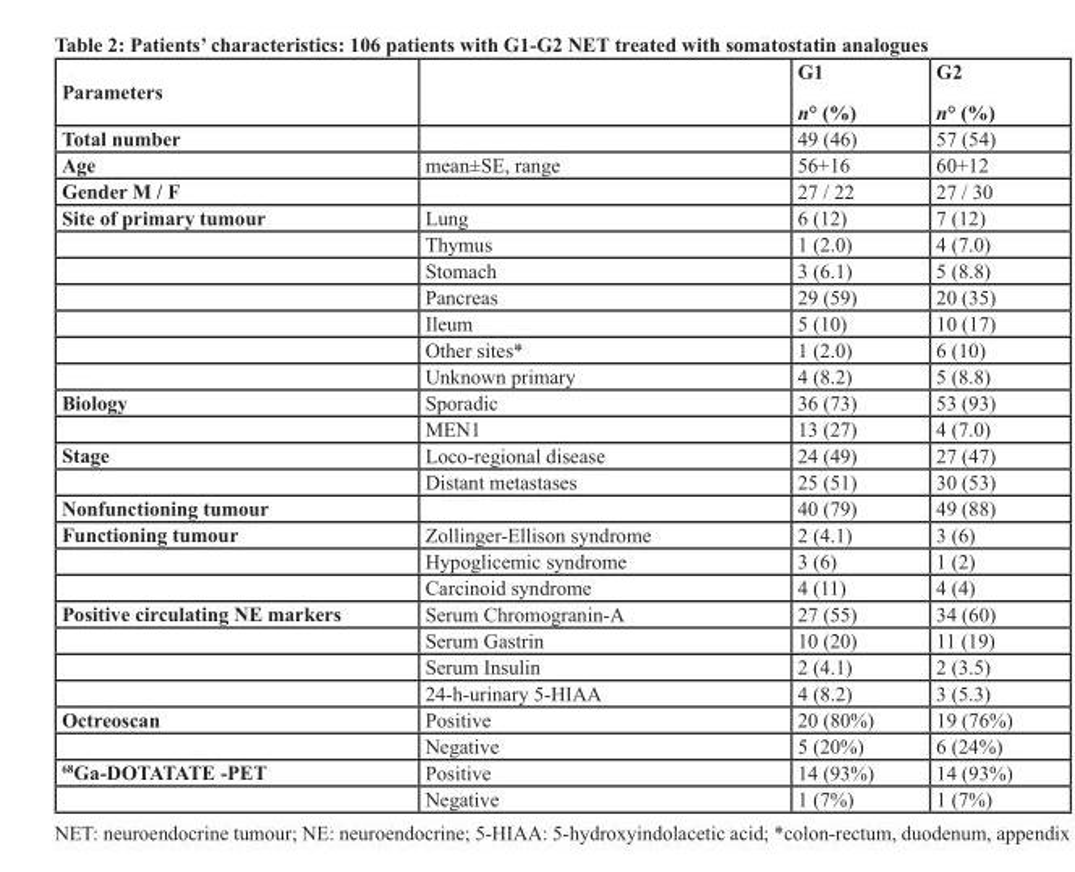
<table><thead><tr><td>Parameters</td><td></td><td>G1 n° (%)</td><td>G2 n° (%)</td></tr></thead><tbody><tr><td>Total number</td><td></td><td>49 (46)</td><td>57 (54)</td></tr><tr><td>Age</td><td>mean±SE, range</td><td>56+16</td><td>60+12</td></tr><tr><td>Gender M / F</td><td></td><td>27 / 22</td><td>27 / 30</td></tr><tr><td rowspan="7">Site of primary tumour</td><td>Lung</td><td>6 (12)</td><td>7 (12)</td></tr><tr><td>Thymus</td><td>1 (2.0)</td><td>4 (7.0)</td></tr><tr><td>Stomach</td><td>3 (6.1)</td><td>5 (8.8)</td></tr><tr><td>Pancreas</td><td>29 (59)</td><td>20 (35)</td></tr><tr><td>Ileum</td><td>5 (10)</td><td>10 (17)</td></tr><tr><td>Other sites*</td><td>1 (2.0)</td><td>6 (10)</td></tr><tr><td>Unknown primary</td><td>4 (8.2)</td><td>5 (8.8)</td></tr><tr><td rowspan="2">Biology</td><td>Sporadic</td><td>36 (73)</td><td>53 (93)</td></tr><tr><td>MEN1</td><td>13 (27)</td><td>4 (7.0)</td></tr><tr><td rowspan="2">Stage</td><td>Loco-regional disease</td><td>24 (49)</td><td>27 (47)</td></tr><tr><td>Distant metastases</td><td>25 (51)</td><td>30 (53)</td></tr><tr><td>Nonfunctioning tumour</td><td></td><td>40 (79)</td><td>49 (88)</td></tr><tr><td rowspan="3">Functioning tumour</td><td>Zollinger-Ellison syndrome</td><td>2 (4.1)</td><td>3 (6)</td></tr><tr><td>Hypoglicemic syndrome</td><td>3 (6)</td><td>1 (2)</td></tr><tr><td>Carcinoid syndrome</td><td>4 (11)</td><td>4 (4)</td></tr><tr><td rowspan="4">Positive circulating NE markers</td><td>Serum Chromogranin-A</td><td>27 (55)</td><td>34 (60)</td></tr><tr><td>Serum Gastrin</td><td>10 (20)</td><td>11 (19)</td></tr><tr><td>Serum Insulin</td><td>2 (4.1)</td><td>2 (3.5)</td></tr><tr><td>24-h-urinary 5-HIAA</td><td>4 (8.2)</td><td>3 (5.3)</td></tr><tr><td rowspan="2">Octreoscan</td><td>Positive</td><td>20 (80%)</td><td>19 (76%)</td></tr><tr><td>Negative</td><td>5 (20%)</td><td>6 (24%)</td></tr><tr><td rowspan="2"><sup>68</sup>Ga-DOTATATE -PET</td><td>Positive</td><td>14 (93%)</td><td>14 (93%)</td></tr><tr><td>Negative</td><td>1 (7%)</td><td>1 (7%)</td></tr></tbody></table>